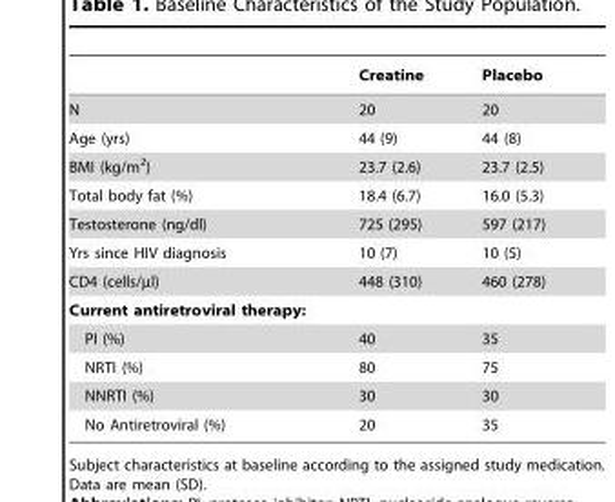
<table><thead><tr><td></td><td>Creatine</td><td>Placebo</td></tr></thead><tbody><tr><td>N</td><td>20</td><td>20</td></tr><tr><td>Age (yrs)</td><td>44 (9)</td><td>44 (8)</td></tr><tr><td>BMI (kg/m<sup>2</sup>)</td><td>23.7 (2.6)</td><td>23.7 (2.5)</td></tr><tr><td>Total body fat (%)</td><td>18.4 (6.7)</td><td>16.0 (5.3)</td></tr><tr><td>Testosterone (ng/dl)</td><td>725 (295)</td><td>597 (217)</td></tr><tr><td>Yrs since HIV diagnosis</td><td>10 (7)</td><td>10 (5)</td></tr><tr><td>CD4 (cells/µl)</td><td>448 (310)</td><td>460 (278)</td></tr><tr><td colspan="3">Current antiretroviral therapy:</td></tr><tr><td>PI (%)</td><td>40</td><td>35</td></tr><tr><td>NRTI (%)</td><td>80</td><td>75</td></tr><tr><td>NNRTI (%)</td><td>30</td><td>30</td></tr><tr><td>No Antiretroviral (%)</td><td>20</td><td>35</td></tr></tbody></table>